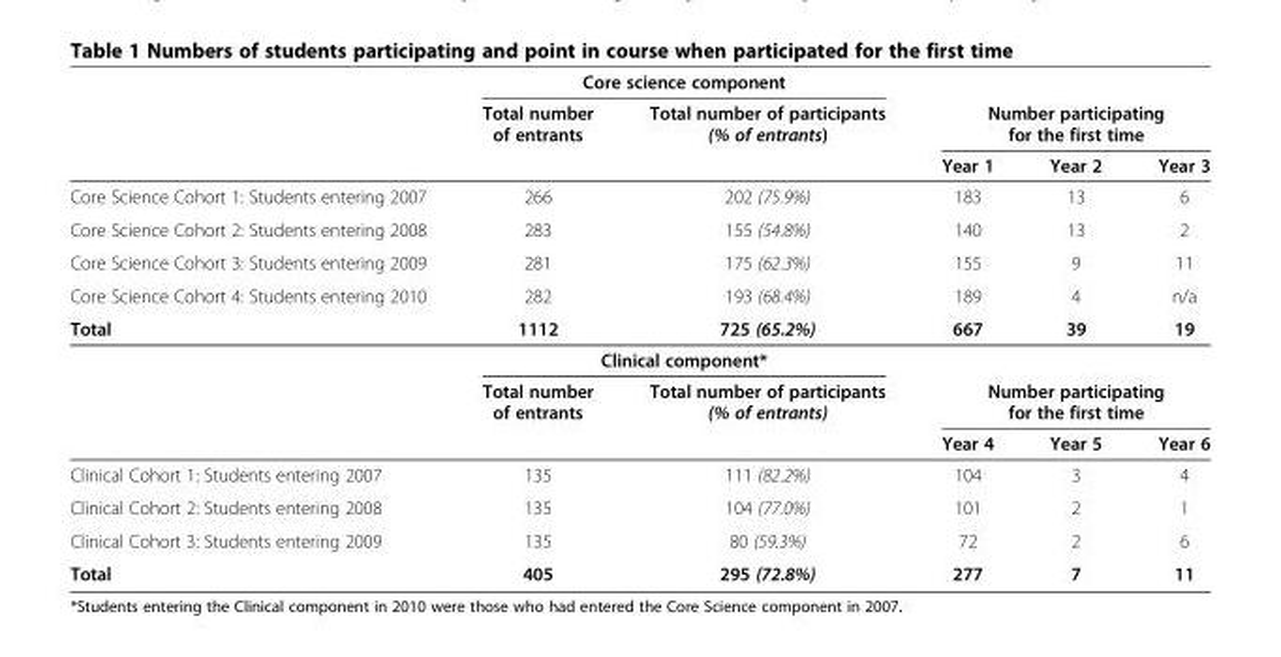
<table><thead><tr><td rowspan="3"></td><td colspan="2">Core science component</td><td></td><td></td><td></td></tr><tr><td rowspan="2">Total number of entrants</td><td rowspan="2">Total number of participants (% of entrants)</td><td colspan="3">Number participating for the first time</td></tr><tr><td>Year 1</td><td>Year 2</td><td>Year 3</td></tr></thead><tbody><tr><td>Core Science Cohort 1: Students entering 2007</td><td>266</td><td>202 (75.9%)</td><td>183</td><td>13</td><td>6</td></tr><tr><td>Core Science Cohort 2: Students entering 2008</td><td>283</td><td>155 (54.8%)</td><td>140</td><td>13</td><td>2</td></tr><tr><td>Core Science Cohort 3: Students entering 2009</td><td>281</td><td>175 (62.3%)</td><td>155</td><td>9</td><td>11</td></tr><tr><td>Core Science Cohort 4: Students entering 2010</td><td>282</td><td>193 (68.4%)</td><td>189</td><td>4</td><td>n/a</td></tr><tr><td rowspan="4">Total</td><td>1112</td><td>725 (65.2%)</td><td>667</td><td>39</td><td>19</td></tr><tr><td colspan="2">Clinical component*</td><td></td><td></td><td></td></tr><tr><td rowspan="2">Total number of entrants</td><td rowspan="2">Total number of participants (% of entrants)</td><td colspan="3">Number participating for the first time</td></tr><tr><td>Year 4</td><td>Year 5</td><td>Year 6</td></tr><tr><td>Clinical Cohort 1: Students entering 2007</td><td>135</td><td>111 (82.2%)</td><td>104</td><td>3</td><td>4</td></tr><tr><td>Clinical Cohort 2: Students entering 2008</td><td>135</td><td>104 (77.0%)</td><td>101</td><td>2</td><td>1</td></tr><tr><td>Clinical Cohort 3: Students entering 2009</td><td>135</td><td>80 (59.3%)</td><td>72</td><td>2</td><td>6</td></tr><tr><td>Total</td><td>405</td><td>295 (72.8%)</td><td>277</td><td>7</td><td>11</td></tr></tbody></table>